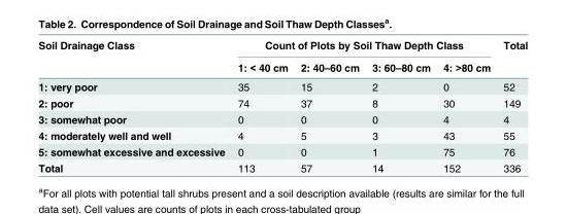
<table><thead><tr><td rowspan="2">Soil Drainage Class</td><td colspan="4">Count of Plots by Soil Thaw Depth Class</td><td rowspan="2">Total</td></tr><tr><td>1: &lt; 40 cm</td><td>2: 40–60 cm</td><td>3: 60–80 cm</td><td>4: &gt;80 cm</td></tr></thead><tbody><tr><td>1: very poor</td><td>35</td><td>15</td><td>2</td><td>0</td><td>52</td></tr><tr><td>2: poor</td><td>74</td><td>37</td><td>8</td><td>30</td><td>149</td></tr><tr><td>3: somewhat poor</td><td>0</td><td>0</td><td>0</td><td>4</td><td>4</td></tr><tr><td>4: moderately well and well</td><td>4</td><td>5</td><td>3</td><td>43</td><td>55</td></tr><tr><td>5: somewhat excessive and excessive</td><td>0</td><td>0</td><td>1</td><td>75</td><td>76</td></tr><tr><td>Total</td><td>113</td><td>57</td><td>14</td><td>152</td><td>336</td></tr></tbody></table>